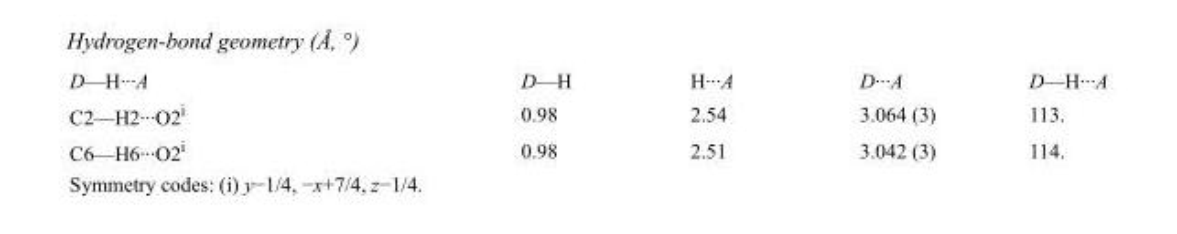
<table><tbody><tr><td>D—H···A</td><td>D—H</td><td>H···A</td><td>D···A</td><td>D—H···A</td></tr><tr><td>C2—H2···O2<sup>i</sup></td><td>0.98</td><td>2.54</td><td>3.064 (3)</td><td>113.</td></tr><tr><td>C6—H6···O2<sup>i</sup></td><td>0.98</td><td>2.51</td><td>3.042 (3)</td><td>114.</td></tr></tbody></table>